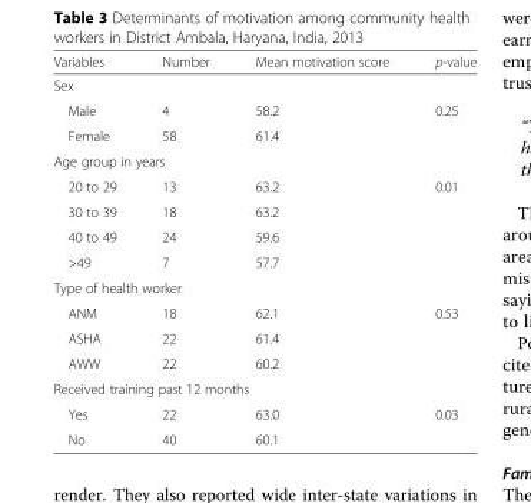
<table><thead><tr><td>Variables</td><td>Number</td><td>Mean motivation score</td><td>p-value</td></tr></thead><tbody><tr><td colspan="4">Sex</td></tr><tr><td>Male</td><td>4</td><td>58.2</td><td>0.25</td></tr><tr><td>Female</td><td>58</td><td>61.4</td><td></td></tr><tr><td colspan="4">Age group in years</td></tr><tr><td>20 to 29</td><td>13</td><td>63.2</td><td>0.01</td></tr><tr><td>30 to 39</td><td>18</td><td>63.2</td><td></td></tr><tr><td>40 to 49</td><td>24</td><td>59.6</td><td></td></tr><tr><td>&gt;49</td><td>7</td><td>57.7</td><td></td></tr><tr><td colspan="4">Type of health worker</td></tr><tr><td>ANM</td><td>18</td><td>62.1</td><td>0.53</td></tr><tr><td>ASHA</td><td>22</td><td>61.4</td><td></td></tr><tr><td>AWW</td><td>22</td><td>60.2</td><td></td></tr><tr><td colspan="4">Received training past 12 months</td></tr><tr><td>Yes</td><td>22</td><td>63.0</td><td>0.03</td></tr><tr><td>No</td><td>40</td><td>60.1</td><td></td></tr></tbody></table>